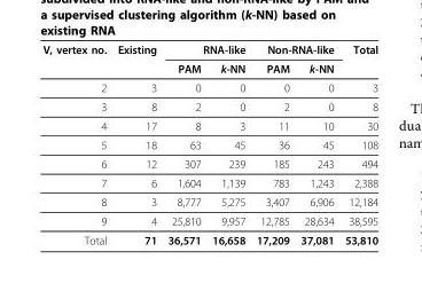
<table><thead><tr><td rowspan="2">V, vertex no.</td><td rowspan="2">Existing</td><td colspan="2">RNA-like</td><td colspan="2">Non-RNA-like</td><td rowspan="2">Total</td></tr><tr><td>PAM</td><td>k-NN</td><td>PAM</td><td>k-NN</td></tr></thead><tbody><tr><td>2</td><td>3</td><td>0</td><td>0</td><td>0</td><td>0</td><td>3</td></tr><tr><td>3</td><td>8</td><td>2</td><td>0</td><td>2</td><td>0</td><td>8</td></tr><tr><td>4</td><td>17</td><td>8</td><td>3</td><td>11</td><td>10</td><td>30</td></tr><tr><td>5</td><td>18</td><td>63</td><td>45</td><td>36</td><td>45</td><td>108</td></tr><tr><td>6</td><td>12</td><td>307</td><td>239</td><td>185</td><td>243</td><td>494</td></tr><tr><td>7</td><td>6</td><td>1,604</td><td>1,139</td><td>783</td><td>1,243</td><td>2,388</td></tr><tr><td>8</td><td>3</td><td>8,777</td><td>5,275</td><td>3,407</td><td>6,906</td><td>12,184</td></tr><tr><td>9</td><td>4</td><td>25,810</td><td>9,957</td><td>12,785</td><td>28,634</td><td>38,595</td></tr><tr><td>Total</td><td>71</td><td>36,571</td><td>16,658</td><td>17,209</td><td>37,081</td><td>53,810</td></tr></tbody></table>